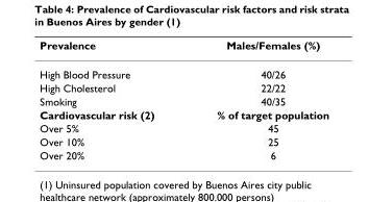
<table><thead><tr><td>Prevalence</td><td>Males/Females (%)</td></tr></thead><tbody><tr><td>High Blood Pressure</td><td>40/26</td></tr><tr><td>High Cholesterol</td><td>22/22</td></tr><tr><td>Smoking</td><td>40/35</td></tr><tr><td>Cardiovascular risk (2)</td><td>% of target population</td></tr><tr><td>Over 5%</td><td>45</td></tr><tr><td>Over 10%</td><td>25</td></tr><tr><td>Over 20%</td><td>6</td></tr></tbody></table>